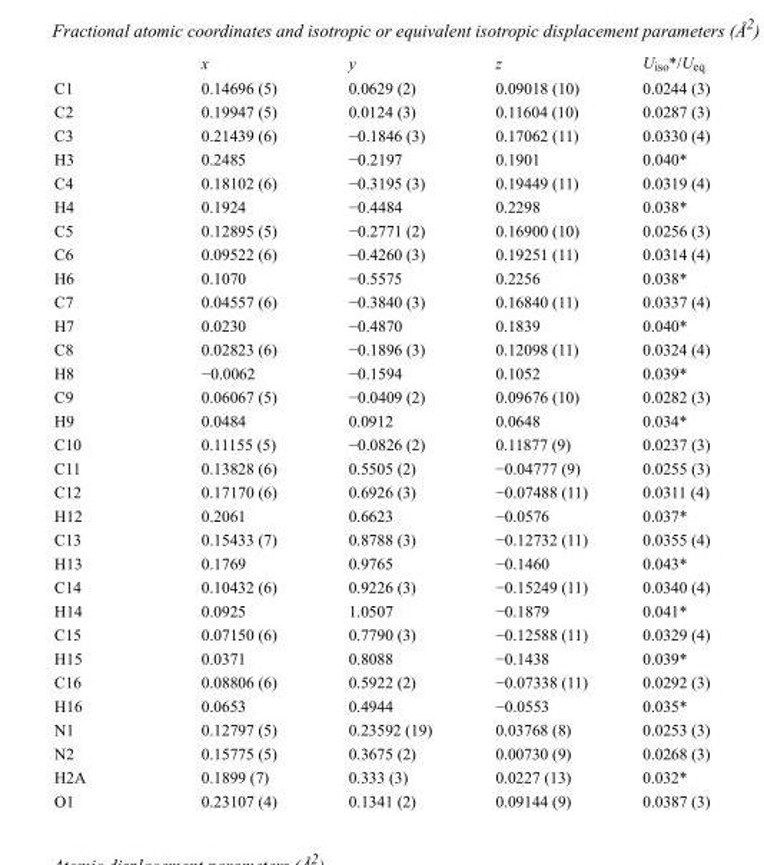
<table><thead><tr><td></td><td>x</td><td>y</td><td>z</td><td>U<sub>iso</sub>*/U<sub>eq</sub></td></tr></thead><tbody><tr><td>C1</td><td>0.14696 (5)</td><td>0.0629 (2)</td><td>0.09018 (10)</td><td>0.0244 (3)</td></tr><tr><td>C2</td><td>0.19947 (5)</td><td>0.0124 (3)</td><td>0.11604 (10)</td><td>0.0287 (3)</td></tr><tr><td>C3</td><td>0.21439 (6)</td><td>−0.1846 (3)</td><td>0.17062 (11)</td><td>0.0330 (4)</td></tr><tr><td>H3</td><td>0.2485</td><td>−0.2197</td><td>0.1901</td><td>0.040*</td></tr><tr><td>C4</td><td>0.18102 (6)</td><td>−0.3195 (3)</td><td>0.19449 (11)</td><td>0.0319 (4)</td></tr><tr><td>H4</td><td>0.1924</td><td>−0.4484</td><td>0.2298</td><td>0.038*</td></tr><tr><td>C5</td><td>0.12895 (5)</td><td>−0.2771 (2)</td><td>0.16900 (10)</td><td>0.0256 (3)</td></tr><tr><td>C6</td><td>0.09522 (6)</td><td>−0.4260 (3)</td><td>0.19251 (11)</td><td>0.0314 (4)</td></tr><tr><td>H6</td><td>0.1070</td><td>−0.5575</td><td>0.2256</td><td>0.038*</td></tr><tr><td>C7</td><td>0.04557 (6)</td><td>−0.3840 (3)</td><td>0.16840 (11)</td><td>0.0337 (4)</td></tr><tr><td>H7</td><td>0.0230</td><td>−0.4870</td><td>0.1839</td><td>0.040*</td></tr><tr><td>C8</td><td>0.02823 (6)</td><td>−0.1896 (3)</td><td>0.12098 (11)</td><td>0.0324 (4)</td></tr><tr><td>H8</td><td>−0.0062</td><td>−0.1594</td><td>0.1052</td><td>0.039*</td></tr><tr><td>C9</td><td>0.06067 (5)</td><td>−0.0409 (2)</td><td>0.09676 (10)</td><td>0.0282 (3)</td></tr><tr><td>H9</td><td>0.0484</td><td>0.0912</td><td>0.0648</td><td>0.034*</td></tr><tr><td>C10</td><td>0.11155 (5)</td><td>−0.0826 (2)</td><td>0.11877 (9)</td><td>0.0237 (3)</td></tr><tr><td>C11</td><td>0.13828 (6)</td><td>0.5505 (2)</td><td>−0.04777 (9)</td><td>0.0255 (3)</td></tr><tr><td>C12</td><td>0.17170 (6)</td><td>0.6926 (3)</td><td>−0.07488 (11)</td><td>0.0311 (4)</td></tr><tr><td>H12</td><td>0.2061</td><td>0.6623</td><td>−0.0576</td><td>0.037*</td></tr><tr><td>C13</td><td>0.15433 (7)</td><td>0.8788 (3)</td><td>−0.12732 (11)</td><td>0.0355 (4)</td></tr><tr><td>H13</td><td>0.1769</td><td>0.9765</td><td>−0.1460</td><td>0.043*</td></tr><tr><td>C14</td><td>0.10432 (6)</td><td>0.9226 (3)</td><td>−0.15249 (11)</td><td>0.0340 (4)</td></tr><tr><td>H14</td><td>0.0925</td><td>1.0507</td><td>−0.1879</td><td>0.041*</td></tr><tr><td>C15</td><td>0.07150 (6)</td><td>0.7790 (3)</td><td>−0.12588 (11)</td><td>0.0329 (4)</td></tr><tr><td>H15</td><td>0.0371</td><td>0.8088</td><td>−0.1438</td><td>0.039*</td></tr><tr><td>C16</td><td>0.08806 (6)</td><td>0.5922 (2)</td><td>−0.07338 (11)</td><td>0.0292 (3)</td></tr><tr><td>H16</td><td>0.0653</td><td>0.4944</td><td>−0.0553</td><td>0.035*</td></tr><tr><td>N1</td><td>0.12797 (5)</td><td>0.23592 (19)</td><td>0.03768 (8)</td><td>0.0253 (3)</td></tr><tr><td>N2</td><td>0.15775 (5)</td><td>0.3675 (2)</td><td>0.00730 (9)</td><td>0.0268 (3)</td></tr><tr><td>H2A</td><td>0.1899 (7)</td><td>0.333 (3)</td><td>0.0227 (13)</td><td>0.032*</td></tr><tr><td>O1</td><td>0.23107 (4)</td><td>0.1341 (2)</td><td>0.09144 (9)</td><td>0.0387 (3)</td></tr></tbody></table>